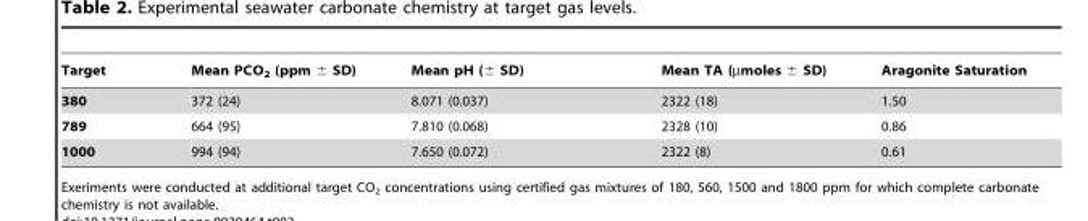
<table><thead><tr><td>Target</td><td>Mean PCO<sub>2</sub> (ppm ± SD)</td><td>Mean pH (± SD)</td><td>Mean TA (µmoles ± SD)</td><td>Aragonite Saturation</td></tr></thead><tbody><tr><td>380</td><td>372 (24)</td><td>8.071 (0.037)</td><td>2322 (18)</td><td>1.50</td></tr><tr><td>789</td><td>664 (95)</td><td>7.810 (0.068)</td><td>2328 (10)</td><td>0.86</td></tr><tr><td>1000</td><td>994 (94)</td><td>7.650 (0.072)</td><td>2322 (8)</td><td>0.61</td></tr></tbody></table>